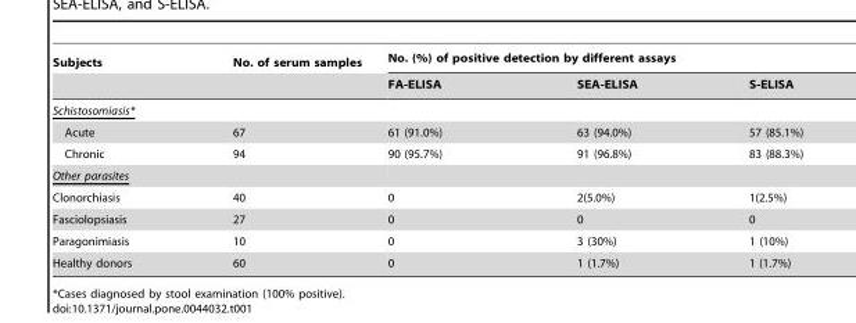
<table><thead><tr><td rowspan="2">Subjects</td><td rowspan="2">No. of serum samples</td><td colspan="3">No. (%) of positive detection by different assays</td></tr><tr><td>FA-ELISA</td><td>SEA-ELISA</td><td>S-ELISA</td></tr></thead><tbody><tr><td colspan="5">Schistosomiasis*</td></tr><tr><td>Acute</td><td>67</td><td>61 (91.0%)</td><td>63 (94.0%)</td><td>57 (85.1%)</td></tr><tr><td>Chronic</td><td>94</td><td>90 (95.7%)</td><td>91 (96.8%)</td><td>83 (88.3%)</td></tr><tr><td colspan="5">Other parasites</td></tr><tr><td>Clonorchiasis</td><td>40</td><td>0</td><td>2(5.0%)</td><td>1(2.5%)</td></tr><tr><td>Fasciolopsiasis</td><td>27</td><td>0</td><td>0</td><td>0</td></tr><tr><td>Paragonimiasis</td><td>10</td><td>0</td><td>3 (30%)</td><td>1 (10%)</td></tr><tr><td>Healthy donors</td><td>60</td><td>0</td><td>1 (1.7%)</td><td>1 (1.7%)</td></tr></tbody></table>